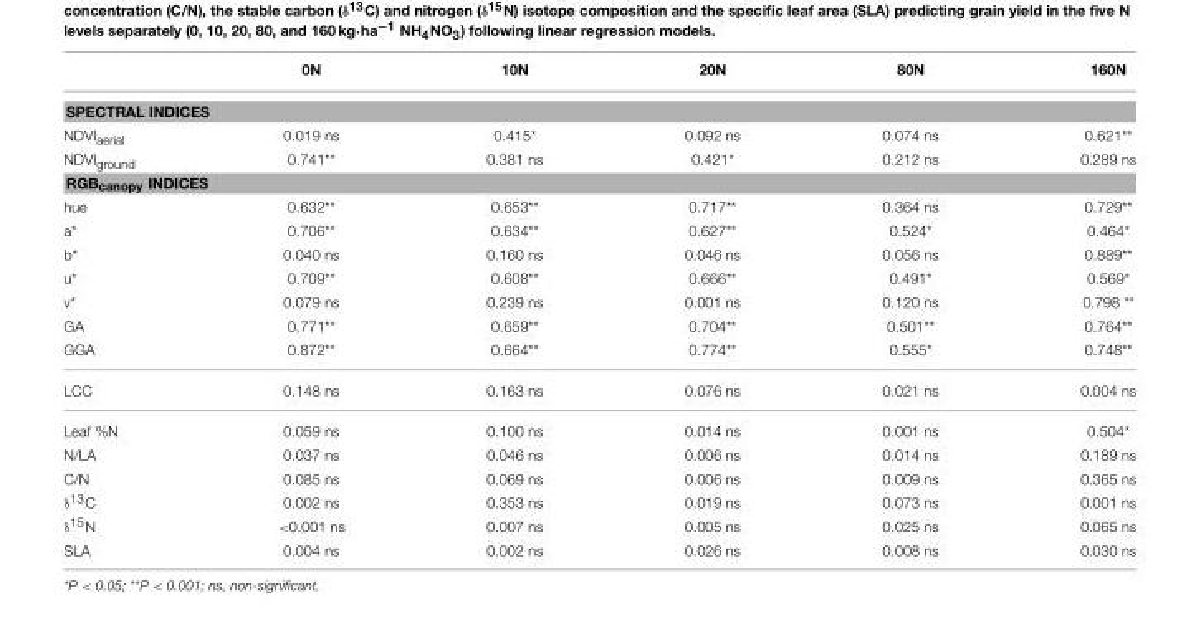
<table><thead><tr><td></td><td>0N</td><td>10N</td><td>20N</td><td>80N</td><td>160N</td></tr></thead><tbody><tr><td colspan="6">SPECTRAL INDICES</td></tr><tr><td>NDVI<sub>aerial</sub></td><td>0.019 ns</td><td>0.415*</td><td>0.092 ns</td><td>0.074 ns</td><td>0.621**</td></tr><tr><td>NDVI<sub>ground</sub></td><td>0.741**</td><td>0.381 ns</td><td>0.421*</td><td>0.212 ns</td><td>0.289 ns</td></tr><tr><td colspan="6">RGB<sub>canopy</sub> INDICES</td></tr><tr><td>hue</td><td>0.632**</td><td>0.653**</td><td>0.717**</td><td>0.364 ns</td><td>0.729**</td></tr><tr><td>a*</td><td>0.706**</td><td>0.634**</td><td>0.627**</td><td>0.524*</td><td>0.464*</td></tr><tr><td>b*</td><td>0.040 ns</td><td>0.160 ns</td><td>0.046 ns</td><td>0.056 ns</td><td>0.889**</td></tr><tr><td>u*</td><td>0.709**</td><td>0.608**</td><td>0.666**</td><td>0.491*</td><td>0.569*</td></tr><tr><td>v*</td><td>0.079 ns</td><td>0.239 ns</td><td>0.001 ns</td><td>0.120 ns</td><td>0.798 **</td></tr><tr><td>GA</td><td>0.771**</td><td>0.659**</td><td>0.704**</td><td>0.501**</td><td>0.764**</td></tr><tr><td>GGA</td><td>0.872**</td><td>0.664**</td><td>0.774**</td><td>0.555*</td><td>0.748**</td></tr><tr><td>LCC</td><td>0.148 ns</td><td>0.163 ns</td><td>0.076 ns</td><td>0.021 ns</td><td>0.004 ns</td></tr><tr><td>Leaf %N</td><td>0.059 ns</td><td>0.100 ns</td><td>0.014 ns</td><td>0.001 ns</td><td>0.504*</td></tr><tr><td>N/LA</td><td>0.037 ns</td><td>0.046 ns</td><td>0.006 ns</td><td>0.014 ns</td><td>0.189 ns</td></tr><tr><td>C/N</td><td>0.085 ns</td><td>0.069 ns</td><td>0.006 ns</td><td>0.009 ns</td><td>0.365 ns</td></tr><tr><td>δ<sup>13</sup>C</td><td>0.002 ns</td><td>0.353 ns</td><td>0.019 ns</td><td>0.073 ns</td><td>0.001 ns</td></tr><tr><td>δ<sup>15</sup>N</td><td>&lt;0.001 ns</td><td>0.007 ns</td><td>0.005 ns</td><td>0.025 ns</td><td>0.065 ns</td></tr><tr><td>SLA</td><td>0.004 ns</td><td>0.002 ns</td><td>0.026 ns</td><td>0.008 ns</td><td>0.030 ns</td></tr></tbody></table>